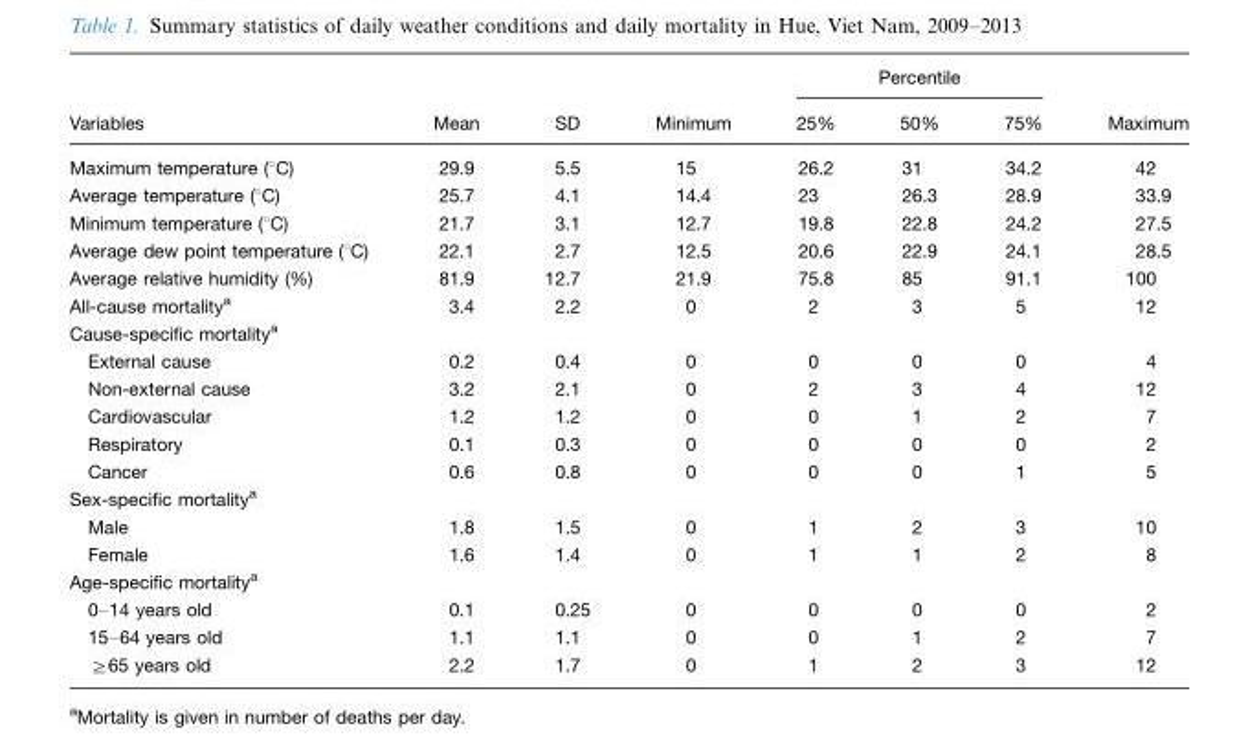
<table><thead><tr><td rowspan="2">Variables</td><td rowspan="2">Mean</td><td rowspan="2">SD</td><td rowspan="2">Minimum</td><td colspan="3">Percentile</td><td rowspan="2">Maximum</td></tr><tr><td>25%</td><td>50%</td><td>75%</td></tr></thead><tbody><tr><td>Maximum temperature (°C)</td><td>29.9</td><td>5.5</td><td>15</td><td>26.2</td><td>31</td><td>34.2</td><td>42</td></tr><tr><td>Average temperature (°C)</td><td>25.7</td><td>4.1</td><td>14.4</td><td>23</td><td>26.3</td><td>28.9</td><td>33.9</td></tr><tr><td>Minimum temperature (°C)</td><td>21.7</td><td>3.1</td><td>12.7</td><td>19.8</td><td>22.8</td><td>24.2</td><td>27.5</td></tr><tr><td>Average dew point temperature (°C)</td><td>22.1</td><td>2.7</td><td>12.5</td><td>20.6</td><td>22.9</td><td>24.1</td><td>28.5</td></tr><tr><td>Average relative humidity (%)</td><td>81.9</td><td>12.7</td><td>21.9</td><td>75.8</td><td>85</td><td>91.1</td><td>100</td></tr><tr><td>All-cause mortality<sup>a</sup></td><td>3.4</td><td>2.2</td><td>0</td><td>2</td><td>3</td><td>5</td><td>12</td></tr><tr><td colspan="8">Cause-specific mortality<sup>a</sup></td></tr><tr><td>External cause</td><td>0.2</td><td>0.4</td><td>0</td><td>0</td><td>0</td><td>0</td><td>4</td></tr><tr><td>Non-external cause</td><td>3.2</td><td>2.1</td><td>0</td><td>2</td><td>3</td><td>4</td><td>12</td></tr><tr><td>Cardiovascular</td><td>1.2</td><td>1.2</td><td>0</td><td>0</td><td>1</td><td>2</td><td>7</td></tr><tr><td>Respiratory</td><td>0.1</td><td>0.3</td><td>0</td><td>0</td><td>0</td><td>0</td><td>2</td></tr><tr><td>Cancer</td><td>0.6</td><td>0.8</td><td>0</td><td>0</td><td>0</td><td>1</td><td>5</td></tr><tr><td colspan="8">Sex-specific mortality<sup>a</sup></td></tr><tr><td>Male</td><td>1.8</td><td>1.5</td><td>0</td><td>1</td><td>2</td><td>3</td><td>10</td></tr><tr><td>Female</td><td>1.6</td><td>1.4</td><td>0</td><td>1</td><td>1</td><td>2</td><td>8</td></tr><tr><td colspan="8">Age-specific mortality<sup>a</sup></td></tr><tr><td>0–14 years old</td><td>0.1</td><td>0.25</td><td>0</td><td>0</td><td>0</td><td>0</td><td>2</td></tr><tr><td>15–64 years old</td><td>1.1</td><td>1.1</td><td>0</td><td>0</td><td>1</td><td>2</td><td>7</td></tr><tr><td>≥65 years old</td><td>2.2</td><td>1.7</td><td>0</td><td>1</td><td>2</td><td>3</td><td>12</td></tr></tbody></table>